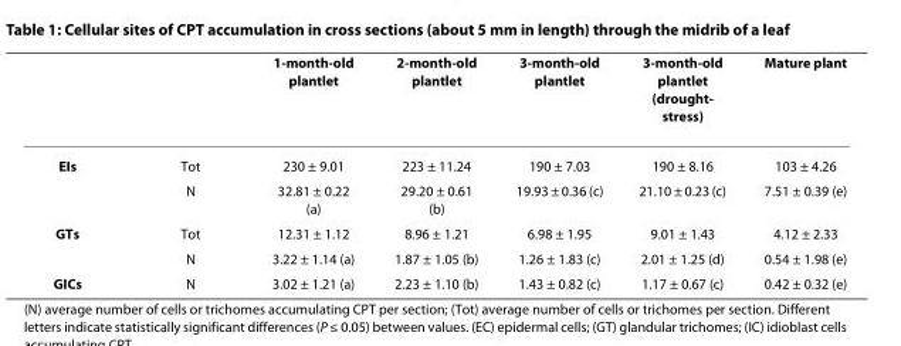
<table><thead><tr><td></td><td></td><td>1-month-old plantlet</td><td>2-month-old plantlet</td><td>3-month-old plantlet</td><td>3-month-old plantlet (drought- stress)</td><td>Mature plant</td></tr></thead><tbody><tr><td rowspan="2">EIs</td><td>Tot</td><td>230 ± 9.01</td><td>223 ± 11.24</td><td>190 ± 7.03</td><td>190 ± 8.16</td><td>103 ± 4.26</td></tr><tr><td>N</td><td>32.81 ± 0.22 (a)</td><td>29.20 ± 0.61 (b)</td><td>19.93 ± 0.36 (c)</td><td>21.10 ± 0.23 (c)</td><td>7.51 ± 0.39 (e)</td></tr><tr><td rowspan="2">GTs</td><td>Tot</td><td>12.31 ± 1.12</td><td>8.96 ± 1.21</td><td>6.98 ± 1.95</td><td>9.01 ± 1.43</td><td>4.12 ± 2.33</td></tr><tr><td>N</td><td>3.22 ± 1.14 (a)</td><td>1.87 ± 1.05 (b)</td><td>1.26 ± 1.83 (c)</td><td>2.01 ± 1.25 (d)</td><td>0.54 ± 1.98 (e)</td></tr><tr><td>GICs</td><td>N</td><td>3.02 ± 1.21 (a)</td><td>2.23 ± 1.10 (b)</td><td>1.43 ± 0.82 (c)</td><td>1.17 ± 0.67 (c)</td><td>0.42 ± 0.32 (e)</td></tr></tbody></table>